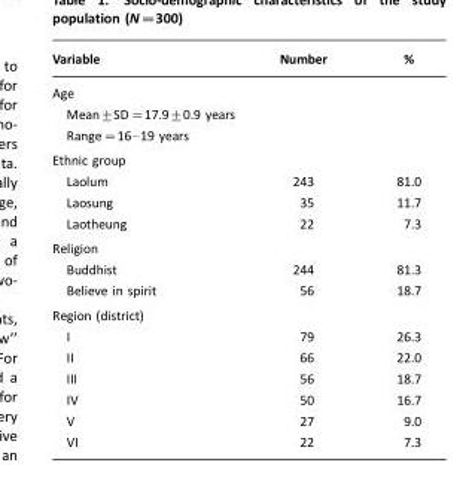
<table><thead><tr><td>Variable</td><td>Number</td><td>%</td></tr></thead><tbody><tr><td colspan="3">Age</td></tr><tr><td colspan="3">Mean±SD=17.9±0.9 years</td></tr><tr><td colspan="3">Range=16–19 years</td></tr><tr><td colspan="3">Ethnic group</td></tr><tr><td>Laolum</td><td>243</td><td>81.0</td></tr><tr><td>Laosung</td><td>35</td><td>11.7</td></tr><tr><td>Laotheung</td><td>22</td><td>7.3</td></tr><tr><td colspan="3">Religion</td></tr><tr><td>Buddhist</td><td>244</td><td>81.3</td></tr><tr><td>Believe in spirit</td><td>56</td><td>18.7</td></tr><tr><td colspan="3">Region (district)</td></tr><tr><td>I</td><td>79</td><td>26.3</td></tr><tr><td>II</td><td>66</td><td>22.0</td></tr><tr><td>III</td><td>56</td><td>18.7</td></tr><tr><td>IV</td><td>50</td><td>16.7</td></tr><tr><td>V</td><td>27</td><td>9.0</td></tr><tr><td>VI</td><td>22</td><td>7.3</td></tr></tbody></table>